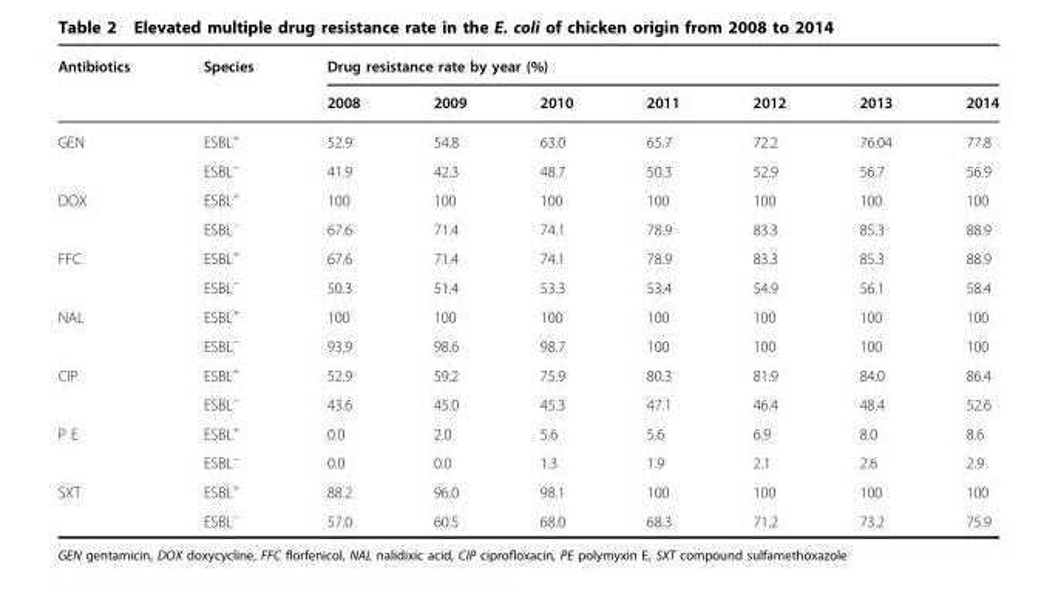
<table><thead><tr><td rowspan="2">Antibiotics</td><td rowspan="2">Species</td><td colspan="7">Drug resistance rate by year (%)</td></tr><tr><td>2008</td><td>2009</td><td>2010</td><td>2011</td><td>2012</td><td>2013</td><td>2014</td></tr></thead><tbody><tr><td rowspan="2">GEN</td><td>ESBL<sup>+</sup></td><td>52.9</td><td>54.8</td><td>63.0</td><td>65.7</td><td>72.2</td><td>76.04</td><td>77.8</td></tr><tr><td>ESBL<sup>−</sup></td><td>41.9</td><td>42.3</td><td>48.7</td><td>50.3</td><td>52.9</td><td>56.7</td><td>56.9</td></tr><tr><td rowspan="2">DOX</td><td>ESBL<sup>+</sup></td><td>100</td><td>100</td><td>100</td><td>100</td><td>100</td><td>100</td><td>100</td></tr><tr><td>ESBL<sup>−</sup></td><td>67.6</td><td>71.4</td><td>74.1</td><td>78.9</td><td>83.3</td><td>85.3</td><td>88.9</td></tr><tr><td rowspan="2">FFC</td><td>ESBL<sup>+</sup></td><td>67.6</td><td>71.4</td><td>74.1</td><td>78.9</td><td>83.3</td><td>85.3</td><td>88.9</td></tr><tr><td>ESBL<sup>−</sup></td><td>50.3</td><td>51.4</td><td>53.3</td><td>53.4</td><td>54.9</td><td>56.1</td><td>58.4</td></tr><tr><td rowspan="2">NAL</td><td>ESBL<sup>+</sup></td><td>100</td><td>100</td><td>100</td><td>100</td><td>100</td><td>100</td><td>100</td></tr><tr><td>ESBL<sup>−</sup></td><td>93.9</td><td>98.6</td><td>98.7</td><td>100</td><td>100</td><td>100</td><td>100</td></tr><tr><td rowspan="2">CIP</td><td>ESBL<sup>+</sup></td><td>52.9</td><td>59.2</td><td>75.9</td><td>80.3</td><td>81.9</td><td>84.0</td><td>86.4</td></tr><tr><td>ESBL<sup>−</sup></td><td>43.6</td><td>45.0</td><td>45.3</td><td>47.1</td><td>46.4</td><td>48.4</td><td>52.6</td></tr><tr><td rowspan="2">P E</td><td>ESBL<sup>+</sup></td><td>0.0</td><td>2.0</td><td>5.6</td><td>5.6</td><td>6.9</td><td>8.0</td><td>8.6</td></tr><tr><td>ESBL<sup>−</sup></td><td>0.0</td><td>0.0</td><td>1.3</td><td>1.9</td><td>2.1</td><td>2.6</td><td>2.9</td></tr><tr><td rowspan="2">SXT</td><td>ESBL<sup>+</sup></td><td>88.2</td><td>96.0</td><td>98.1</td><td>100</td><td>100</td><td>100</td><td>100</td></tr><tr><td>ESBL<sup>−</sup></td><td>57.0</td><td>60.5</td><td>68.0</td><td>68.3</td><td>71.2</td><td>73.2</td><td>75.9</td></tr></tbody></table>